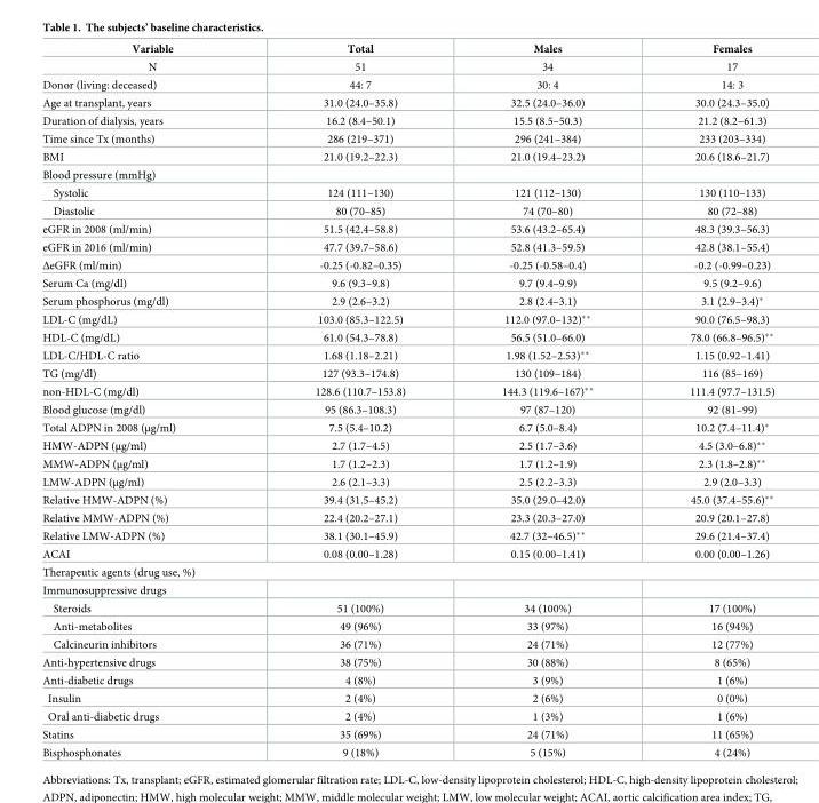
<table><thead><tr><td>Variable</td><td>Total</td><td>Males</td><td>Females</td></tr></thead><tbody><tr><td>N</td><td>51</td><td>34</td><td>17</td></tr><tr><td>Donor (living: deceased)</td><td>44: 7</td><td>30: 4</td><td>14: 3</td></tr><tr><td>Age at transplant, years</td><td>31.0 (24.0–35.8)</td><td>32.5 (24.0–36.0)</td><td>30.0 (24.3–35.0)</td></tr><tr><td>Duration of dialysis, years</td><td>16.2 (8.4–50.1)</td><td>15.5 (8.5–50.3)</td><td>21.2 (8.2–61.3)</td></tr><tr><td>Time since Tx (months)</td><td>286 (219–371)</td><td>296 (241–384)</td><td>233 (203–334)</td></tr><tr><td>BMI</td><td>21.0 (19.2–22.3)</td><td>21.0 (19.4–23.2)</td><td>20.6 (18.6–21.7)</td></tr><tr><td colspan="4">Blood pressure (mmHg)</td></tr><tr><td>Systolic</td><td>124 (111–130)</td><td>121 (112–130)</td><td>130 (110–133)</td></tr><tr><td>Diastolic</td><td>80 (70–85)</td><td>74 (70–80)</td><td>80 (72–88)</td></tr><tr><td>eGFR in 2008 (ml/min)</td><td>51.5 (42.4–58.8)</td><td>53.6 (43.2–65.4)</td><td>48.3 (39.3–56.3)</td></tr><tr><td>eGFR in 2016 (ml/min)</td><td>47.7 (39.7–58.6)</td><td>52.8 (41.3–59.5)</td><td>42.8 (38.1–55.4)</td></tr><tr><td>ΔeGFR (ml/min)</td><td>-0.25 (-0.82–0.35)</td><td>-0.25 (-0.58–0.4)</td><td>-0.2 (-0.99–0.23)</td></tr><tr><td>Serum Ca (mg/dl)</td><td>9.6 (9.3–9.8)</td><td>9.7 (9.4–9.9)</td><td>9.5 (9.2–9.6)</td></tr><tr><td>Serum phosphorus (mg/dl)</td><td>2.9 (2.6–3.2)</td><td>2.8 (2.4–3.1)</td><td>3.1 (2.9–3.4)*</td></tr><tr><td>LDL-C (mg/dL)</td><td>103.0 (85.3–122.5)</td><td>112.0 (97.0–132)**</td><td>90.0 (76.5–98.3)</td></tr><tr><td>HDL-C (mg/dL)</td><td>61.0 (54.3–78.8)</td><td>56.5 (51.0–66.0)</td><td>78.0 (66.8–96.5)**</td></tr><tr><td>LDL-C/HDL-C ratio</td><td>1.68 (1.18–2.21)</td><td>1.98 (1.52–2.53)**</td><td>1.15 (0.92–1.41)</td></tr><tr><td>TG (mg/dl)</td><td>127 (93.3–174.8)</td><td>130 (109–184)</td><td>116 (85–169)</td></tr><tr><td>non-HDL-C (mg/dl)</td><td>128.6 (110.7–153.8)</td><td>144.3 (119.6–167)**</td><td>111.4 (97.7–131.5)</td></tr><tr><td>Blood glucose (mg/dl)</td><td>95 (86.3–108.3)</td><td>97 (87–120)</td><td>92 (81–99)</td></tr><tr><td>Total ADPN in 2008 (μg/ml)</td><td>7.5 (5.4–10.2)</td><td>6.7 (5.0–8.4)</td><td>10.2 (7.4–11.4)*</td></tr><tr><td>HMW-ADPN (μg/ml)</td><td>2.7 (1.7–4.5)</td><td>2.5 (1.7–3.6)</td><td>4.5 (3.0–6.8)**</td></tr><tr><td>MMW-ADPN (μg/ml)</td><td>1.7 (1.2–2.3)</td><td>1.7 (1.2–1.9)</td><td>2.3 (1.8–2.8)**</td></tr><tr><td>LMW-ADPN (μg/ml)</td><td>2.6 (2.1–3.3)</td><td>2.5 (2.2–3.3)</td><td>2.9 (2.0–3.3)</td></tr><tr><td>Relative HMW-ADPN (%)</td><td>39.4 (31.5–45.2)</td><td>35.0 (29.0–42.0)</td><td>45.0 (37.4–55.6)**</td></tr><tr><td>Relative MMW-ADPN (%)</td><td>22.4 (20.2–27.1)</td><td>23.3 (20.3–27.0)</td><td>20.9 (20.1–27.8)</td></tr><tr><td>Relative LMW-ADPN (%)</td><td>38.1 (30.1–45.9)</td><td>42.7 (32–46.5)**</td><td>29.6 (21.4–37.4)</td></tr><tr><td>ACAI</td><td>0.08 (0.00–1.28)</td><td>0.15 (0.00–1.41)</td><td>0.00 (0.00–1.26)</td></tr><tr><td colspan="4">Therapeutic agents (drug use, %)</td></tr><tr><td colspan="4">Immunosuppressive drugs</td></tr><tr><td>Steroids</td><td>51 (100%)</td><td>34 (100%)</td><td>17 (100%)</td></tr><tr><td>Anti-metabolites</td><td>49 (96%)</td><td>33 (97%)</td><td>16 (94%)</td></tr><tr><td>Calcineurin inhibitors</td><td>36 (71%)</td><td>24 (71%)</td><td>12 (77%)</td></tr><tr><td>Anti-hypertensive drugs</td><td>38 (75%)</td><td>30 (88%)</td><td>8 (65%)</td></tr><tr><td>Anti-diabetic drugs</td><td>4 (8%)</td><td>3 (9%)</td><td>1 (6%)</td></tr><tr><td>Insulin</td><td>2 (4%)</td><td>2 (6%)</td><td>0 (0%)</td></tr><tr><td>Oral anti-diabetic drugs</td><td>2 (4%)</td><td>1 (3%)</td><td>1 (6%)</td></tr><tr><td>Statins</td><td>35 (69%)</td><td>24 (71%)</td><td>11 (65%)</td></tr><tr><td>Bisphosphonates</td><td>9 (18%)</td><td>5 (15%)</td><td>4 (24%)</td></tr></tbody></table>